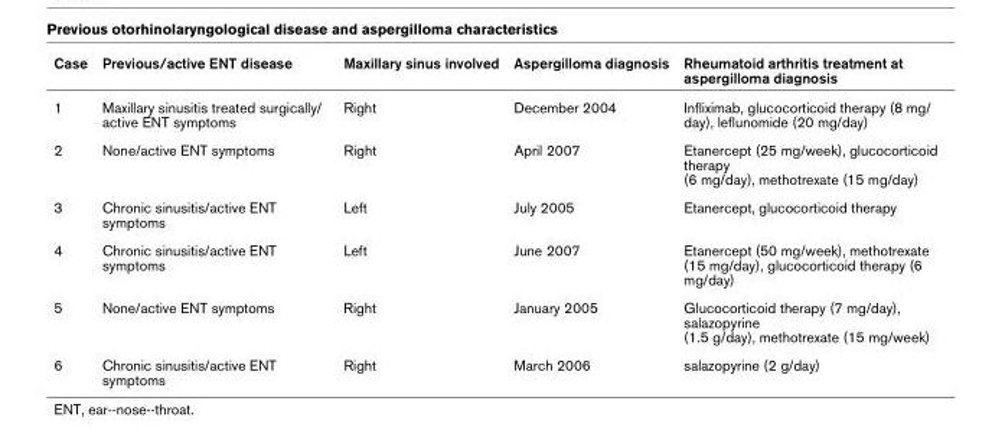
<table><thead><tr><td>Case</td><td>Previous/active ENT disease</td><td>Maxillary sinus involved</td><td>Aspergilloma diagnosis</td><td>Rheumatoid arthritis treatment at aspergilloma diagnosis</td></tr></thead><tbody><tr><td>1</td><td>Maxillary sinusitis treated surgically/ active ENT symptoms</td><td>Right</td><td>December 2004</td><td>Infliximab, glucocorticoid therapy (8 mg/ day), leflunomide (20 mg/day)</td></tr><tr><td>2</td><td>None/active ENT symptoms</td><td>Right</td><td>April 2007</td><td>Etanercept (25 mg/week), glucocorticoid therapy (6 mg/day), methotrexate (15 mg/day)</td></tr><tr><td>3</td><td>Chronic sinusitis/active ENT symptoms</td><td>Left</td><td>July 2005</td><td>Etanercept, glucocorticoid therapy</td></tr><tr><td>4</td><td>Chronic sinusitis/active ENT symptoms</td><td>Left</td><td>June 2007</td><td>Etanercept (50 mg/week), methotrexate (15 mg/day), glucocorticoid therapy (6 mg/day)</td></tr><tr><td>5</td><td>None/active ENT symptoms</td><td>Right</td><td>January 2005</td><td>Glucocorticoid therapy (7 mg/day), salazopyrine (1.5 g/day), methotrexate (15 mg/week)</td></tr><tr><td>6</td><td>Chronic sinusitis/active ENT symptoms</td><td>Right</td><td>March 2006</td><td>salazopyrine (2 g/day)</td></tr></tbody></table>